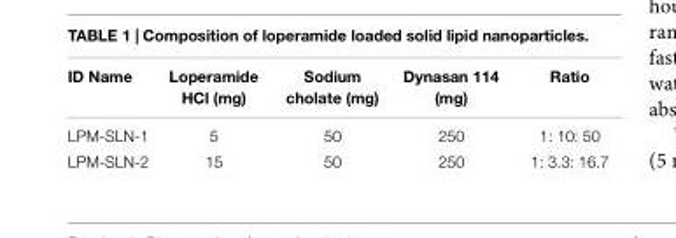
<table><thead><tr><td>ID Name</td><td>Loperamide HCl (mg)</td><td>Sodium cholate (mg)</td><td>Dynasan 114 (mg)</td><td>Ratio</td></tr></thead><tbody><tr><td>LPM-SLN-1</td><td>5</td><td>50</td><td>250</td><td>1: 10: 50</td></tr><tr><td>LPM-SLN-2</td><td>15</td><td>50</td><td>250</td><td>1: 3.3: 16.7</td></tr></tbody></table>